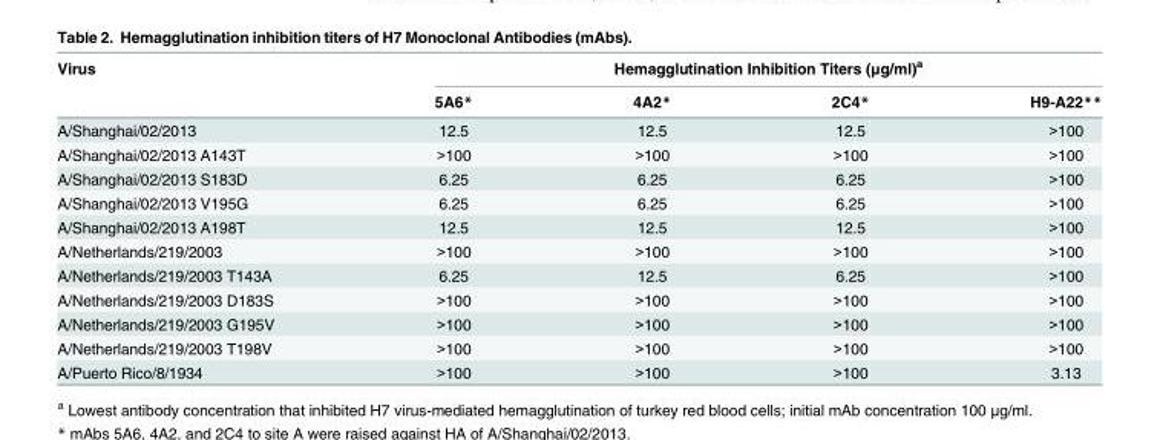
<table><thead><tr><td rowspan="2">Virus</td><td colspan="4">Hemagglutination Inhibition Titers (μg/ml)<sup>a</sup></td></tr><tr><td>5A6*</td><td>4A2*</td><td>2C4*</td><td>H9-A22**</td></tr></thead><tbody><tr><td>A/Shanghai/02/2013</td><td>12.5</td><td>12.5</td><td>12.5</td><td>&gt;100</td></tr><tr><td>A/Shanghai/02/2013 A143T</td><td>&gt;100</td><td>&gt;100</td><td>&gt;100</td><td>&gt;100</td></tr><tr><td>A/Shanghai/02/2013 S183D</td><td>6.25</td><td>6.25</td><td>6.25</td><td>&gt;100</td></tr><tr><td>A/Shanghai/02/2013 V195G</td><td>6.25</td><td>6.25</td><td>6.25</td><td>&gt;100</td></tr><tr><td>A/Shanghai/02/2013 A198T</td><td>12.5</td><td>12.5</td><td>12.5</td><td>&gt;100</td></tr><tr><td>A/Netherlands/219/2003</td><td>&gt;100</td><td>&gt;100</td><td>&gt;100</td><td>&gt;100</td></tr><tr><td>A/Netherlands/219/2003 T143A</td><td>6.25</td><td>12.5</td><td>6.25</td><td>&gt;100</td></tr><tr><td>A/Netherlands/219/2003 D183S</td><td>&gt;100</td><td>&gt;100</td><td>&gt;100</td><td>&gt;100</td></tr><tr><td>A/Netherlands/219/2003 G195V</td><td>&gt;100</td><td>&gt;100</td><td>&gt;100</td><td>&gt;100</td></tr><tr><td>A/Netherlands/219/2003 T198V</td><td>&gt;100</td><td>&gt;100</td><td>&gt;100</td><td>&gt;100</td></tr><tr><td>A/Puerto Rico/8/1934</td><td>&gt;100</td><td>&gt;100</td><td>&gt;100</td><td>3.13</td></tr></tbody></table>